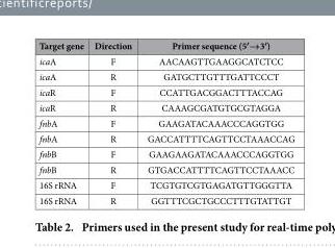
<table><thead><tr><td>Target gene</td><td>Direction</td><td>Primer sequence (5′→3′)</td></tr></thead><tbody><tr><td>icaA</td><td>F</td><td>AACAAGTTGAAGGCATCTCC</td></tr><tr><td>icaA</td><td>R</td><td>GATGCTTGTTTGATTCCCT</td></tr><tr><td>icaR</td><td>F</td><td>CCATTGACGGACTTTACCAG</td></tr><tr><td>icaR</td><td>R</td><td>CAAAGCGATGTGCGTAGGA</td></tr><tr><td>fnbA</td><td>F</td><td>GAAGATACAAACCCAGGTGG</td></tr><tr><td>fnbA</td><td>R</td><td>GACCATTTTCAGTTCCTAAACCAG</td></tr><tr><td>fnbB</td><td>F</td><td>GAAGAAGATACAAACCCAGGTGG</td></tr><tr><td>fnbB</td><td>R</td><td>GTGACCATTTTCAGTTCCTAAACC</td></tr><tr><td>16S rRNA</td><td>F</td><td>TCGTGTCGTGAGATGTTGGGTTA</td></tr><tr><td>16S rRNA</td><td>R</td><td>GGTTTCGCTGCCCTTTGTATTGT</td></tr></tbody></table>